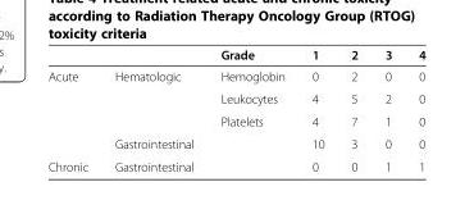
<table><thead><tr><td></td><td></td><td>Grade</td><td>1</td><td>2</td><td>3</td><td>4</td></tr></thead><tbody><tr><td rowspan="4">Acute</td><td>Hematologic</td><td>Hemoglobin</td><td>0</td><td>2</td><td>0</td><td>0</td></tr><tr><td></td><td>Leukocytes</td><td>4</td><td>5</td><td>2</td><td>0</td></tr><tr><td></td><td>Platelets</td><td>4</td><td>7</td><td>1</td><td>0</td></tr><tr><td>Gastrointestinal</td><td></td><td>10</td><td>3</td><td>0</td><td>0</td></tr><tr><td>Chronic</td><td>Gastrointestinal</td><td></td><td>0</td><td>0</td><td>1</td><td>1</td></tr></tbody></table>